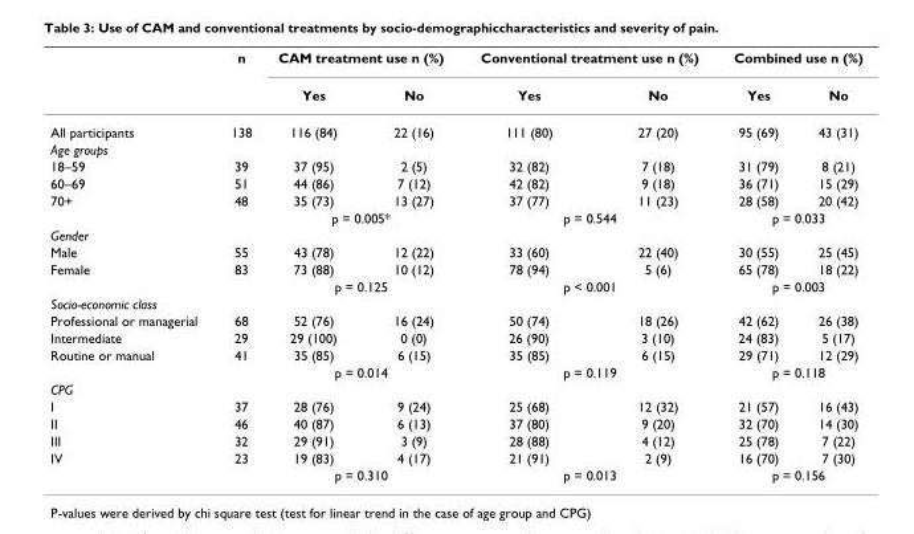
<table><thead><tr><td rowspan="2"></td><td rowspan="2">n</td><td colspan="2">CAM treatment use n (%)</td><td colspan="2">Conventional treatment use n (%)</td><td colspan="2">Combined use n (%)</td></tr><tr><td>Yes</td><td>No</td><td>Yes</td><td>No</td><td>Yes</td><td>No</td></tr></thead><tbody><tr><td>All participants</td><td>138</td><td>116 (84)</td><td>22 (16)</td><td>111 (80)</td><td>27 (20)</td><td>95 (69)</td><td>43 (31)</td></tr><tr><td colspan="8">Age groups</td></tr><tr><td>18–59</td><td>39</td><td>37 (95)</td><td>2 (5)</td><td>32 (82)</td><td>7 (18)</td><td>31 (79)</td><td>8 (21)</td></tr><tr><td>60–69</td><td>51</td><td>44 (86)</td><td>7 (12)</td><td>42 (82)</td><td>9 (18)</td><td>36 (71)</td><td>15 (29)</td></tr><tr><td rowspan="2">70+</td><td>48</td><td>35 (73)</td><td>13 (27)</td><td>37 (77)</td><td>11 (23)</td><td>28 (58)</td><td>20 (42)</td></tr><tr><td></td><td colspan="2">p = 0.005*</td><td colspan="2">p = 0.544</td><td colspan="2">p = 0.033</td></tr><tr><td colspan="8">Gender</td></tr><tr><td>Male</td><td>55</td><td>43 (78)</td><td>12 (22)</td><td>33 (60)</td><td>22 (40)</td><td>30 (55)</td><td>25 (45)</td></tr><tr><td rowspan="2">Female</td><td>83</td><td>73 (88)</td><td>10 (12)</td><td>78 (94)</td><td>5 (6)</td><td>65 (78)</td><td>18 (22)</td></tr><tr><td></td><td colspan="2">p = 0.125</td><td colspan="2">p &lt; 0.001</td><td colspan="2">p = 0.003</td></tr><tr><td colspan="8">Socio-economic class</td></tr><tr><td>Professional or managerial</td><td>68</td><td>52 (76)</td><td>16 (24)</td><td>50 (74)</td><td>18 (26)</td><td>42 (62)</td><td>26 (38)</td></tr><tr><td>Intermediate</td><td>29</td><td>29 (100)</td><td>0 (0)</td><td>26 (90)</td><td>3 (10)</td><td>24 (83)</td><td>5 (17)</td></tr><tr><td rowspan="2">Routine or manual</td><td>41</td><td>35 (85)</td><td>6 (15)</td><td>35 (85)</td><td>6 (15)</td><td>29 (71)</td><td>12 (29)</td></tr><tr><td></td><td colspan="2">p = 0.014</td><td colspan="2">p = 0.119</td><td colspan="2">p = 0.118</td></tr><tr><td colspan="8">CPG</td></tr><tr><td>I</td><td>37</td><td>28 (76)</td><td>9 (24)</td><td>25 (68)</td><td>12 (32)</td><td>21 (57)</td><td>16 (43)</td></tr><tr><td>II</td><td>46</td><td>40 (87)</td><td>6 (13)</td><td>37 (80)</td><td>9 (20)</td><td>32 (70)</td><td>14 (30)</td></tr><tr><td>III</td><td>32</td><td>29 (91)</td><td>3 (9)</td><td>28 (88)</td><td>4 (12)</td><td>25 (78)</td><td>7 (22)</td></tr><tr><td rowspan="2">IV</td><td>23</td><td>19 (83)</td><td>4 (17)</td><td>21 (91)</td><td>2 (9)</td><td>16 (70)</td><td>7 (30)</td></tr><tr><td></td><td colspan="2">p = 0.310</td><td colspan="2">p = 0.013</td><td colspan="2">p = 0.156</td></tr></tbody></table>